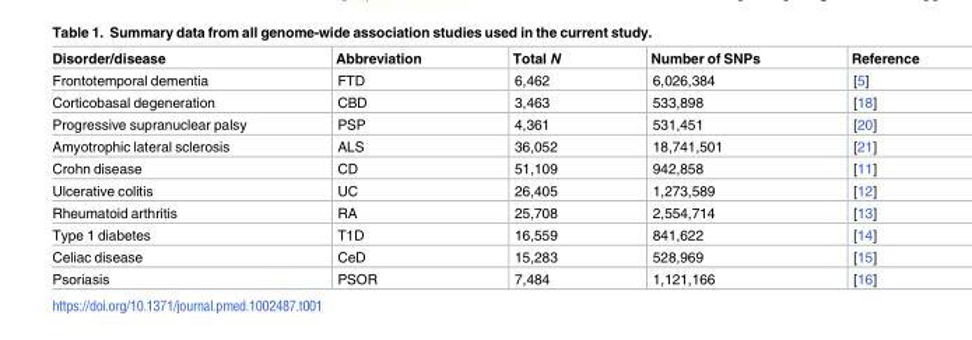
<table><thead><tr><td>Disorder/disease</td><td>Abbreviation</td><td>Total N</td><td>Number of SNPs</td><td>Reference</td></tr></thead><tbody><tr><td>Frontotemporal dementia</td><td>FTD</td><td>6,462</td><td>6,026,384</td><td>[5]</td></tr><tr><td>Corticobasal degeneration</td><td>CBD</td><td>3,463</td><td>533,898</td><td>[18]</td></tr><tr><td>Progressive supranuclear palsy</td><td>PSP</td><td>4,361</td><td>531,451</td><td>[20]</td></tr><tr><td>Amyotrophic lateral sclerosis</td><td>ALS</td><td>36,052</td><td>18,741,501</td><td>[21]</td></tr><tr><td>Crohn disease</td><td>CD</td><td>51,109</td><td>942,858</td><td>[11]</td></tr><tr><td>Ulcerative colitis</td><td>UC</td><td>26,405</td><td>1,273,589</td><td>[12]</td></tr><tr><td>Rheumatoid arthritis</td><td>RA</td><td>25,708</td><td>2,554,714</td><td>[13]</td></tr><tr><td>Type 1 diabetes</td><td>T1D</td><td>16,559</td><td>841,622</td><td>[14]</td></tr><tr><td>Celiac disease</td><td>CeD</td><td>15,283</td><td>528,969</td><td>[15]</td></tr><tr><td>Psoriasis</td><td>PSOR</td><td>7,484</td><td>1,121,166</td><td>[16]</td></tr></tbody></table>